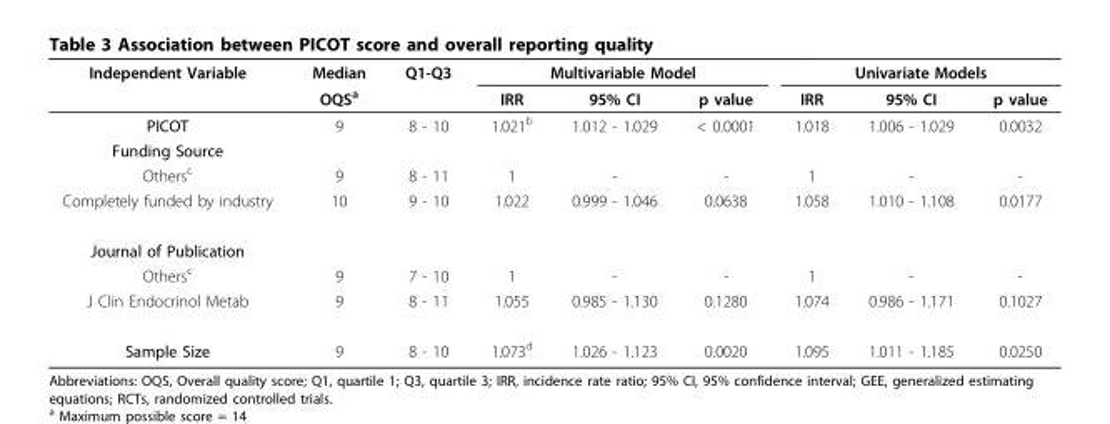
<table><thead><tr><td rowspan="2">Independent Variable</td><td rowspan="2">Median OQS<sup>a</sup></td><td rowspan="2">Q1-Q3</td><td colspan="3">Multivariable Model</td><td colspan="3">Univariate Models</td></tr><tr><td>IRR</td><td>95% CI</td><td>p value</td><td>IRR</td><td>95% CI</td><td>p value</td></tr></thead><tbody><tr><td>PICOT</td><td>9</td><td>8 - 10</td><td>1.021<sup>b</sup></td><td>1.012 - 1.029</td><td>&lt; 0.0001</td><td>1.018</td><td>1.006 - 1.029</td><td>0.0032</td></tr><tr><td colspan="9">Funding Source</td></tr><tr><td>Others<sup>c</sup></td><td>9</td><td>8 - 11</td><td>1</td><td>-</td><td>-</td><td>1</td><td>-</td><td>-</td></tr><tr><td>Completely funded by industry</td><td>10</td><td>9 - 10</td><td>1.022</td><td>0.999 - 1.046</td><td>0.0638</td><td>1.058</td><td>1.010 - 1.108</td><td>0.0177</td></tr><tr><td colspan="9">Journal of Publication</td></tr><tr><td>Others<sup>c</sup></td><td>9</td><td>7 - 10</td><td>1</td><td>-</td><td>-</td><td>1</td><td>-</td><td>-</td></tr><tr><td>J Clin Endocrinol Metab</td><td>9</td><td>8 - 11</td><td>1.055</td><td>0.985 - 1.130</td><td>0.1280</td><td>1.074</td><td>0.986 - 1.171</td><td>0.1027</td></tr><tr><td>Sample Size</td><td>9</td><td>8 - 10</td><td>1.073<sup>d</sup></td><td>1.026 - 1.123</td><td>0.0020</td><td>1.095</td><td>1.011 - 1.185</td><td>0.0250</td></tr></tbody></table>